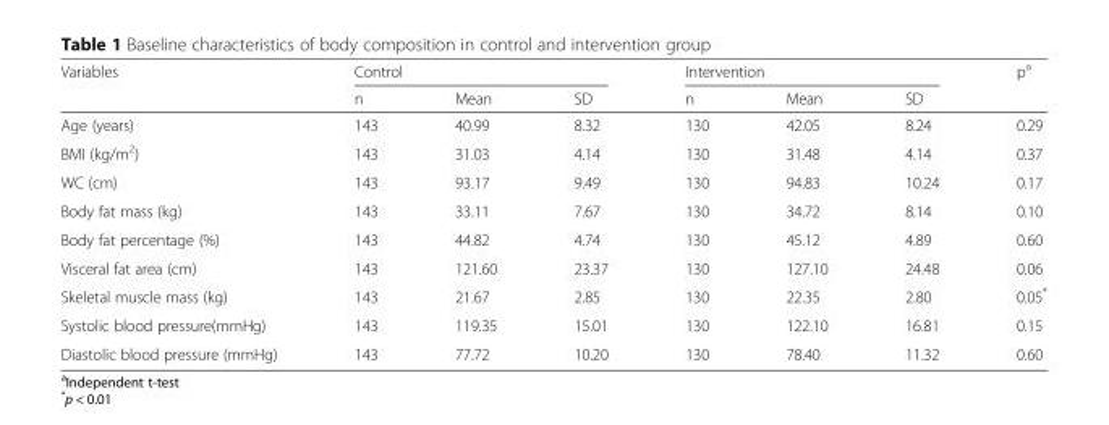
<table><thead><tr><td rowspan="2">Variables</td><td colspan="3">Control</td><td colspan="3">Intervention</td><td rowspan="2">p<sup>a</sup></td></tr><tr><td>n</td><td>Mean</td><td>SD</td><td>n</td><td>Mean</td><td>SD</td></tr></thead><tbody><tr><td>Age (years)</td><td>143</td><td>40.99</td><td>8.32</td><td>130</td><td>42.05</td><td>8.24</td><td>0.29</td></tr><tr><td>BMI (kg/m<sup>2</sup>)</td><td>143</td><td>31.03</td><td>4.14</td><td>130</td><td>31.48</td><td>4.14</td><td>0.37</td></tr><tr><td>WC (cm)</td><td>143</td><td>93.17</td><td>9.49</td><td>130</td><td>94.83</td><td>10.24</td><td>0.17</td></tr><tr><td>Body fat mass (kg)</td><td>143</td><td>33.11</td><td>7.67</td><td>130</td><td>34.72</td><td>8.14</td><td>0.10</td></tr><tr><td>Body fat percentage (%)</td><td>143</td><td>44.82</td><td>4.74</td><td>130</td><td>45.12</td><td>4.89</td><td>0.60</td></tr><tr><td>Visceral fat area (cm)</td><td>143</td><td>121.60</td><td>23.37</td><td>130</td><td>127.10</td><td>24.48</td><td>0.06</td></tr><tr><td>Skeletal muscle mass (kg)</td><td>143</td><td>21.67</td><td>2.85</td><td>130</td><td>22.35</td><td>2.80</td><td>0.05*</td></tr><tr><td>Systolic blood pressure(mmHg)</td><td>143</td><td>119.35</td><td>15.01</td><td>130</td><td>122.10</td><td>16.81</td><td>0.15</td></tr><tr><td>Diastolic blood pressure (mmHg)</td><td>143</td><td>77.72</td><td>10.20</td><td>130</td><td>78.40</td><td>11.32</td><td>0.60</td></tr></tbody></table>